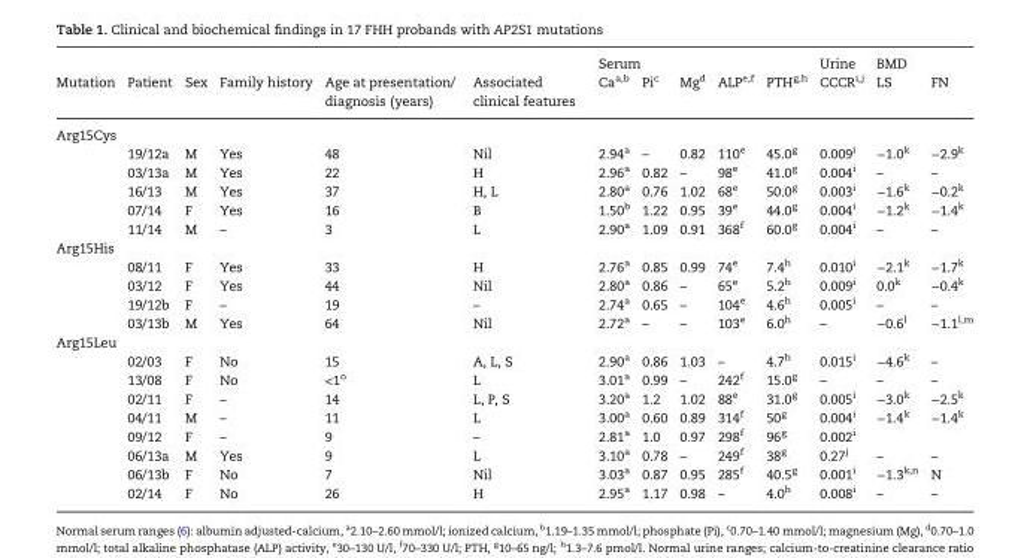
<table><thead><tr><td rowspan="2">Mutation</td><td rowspan="2">Patient</td><td rowspan="2">Sex</td><td rowspan="2">Family history</td><td rowspan="2">Age at presentation/ diagnosis (years)</td><td rowspan="2">Associated clinical features</td><td colspan="5">Serum</td><td rowspan="2">Urine CCCR<sup>i,j</sup></td><td colspan="2">BMD</td></tr><tr><td>Ca<sup>a,b</sup></td><td>Pi<sup>c</sup></td><td>Mg<sup>d</sup></td><td>ALP<sup>e,f</sup></td><td>PTH<sup>g,h</sup></td><td>LS</td><td>FN</td></tr></thead><tbody><tr><td colspan="14">Arg15Cys</td></tr><tr><td rowspan="5"></td><td>19/12a</td><td>M</td><td>Yes</td><td>48</td><td>Nil</td><td>2.94<sup>a</sup></td><td>–</td><td>0.82</td><td>110<sup>e</sup></td><td>45.0<sup>g</sup></td><td>0.009<sup>i</sup></td><td>−1.0<sup>k</sup></td><td>−2.9<sup>k</sup></td></tr><tr><td>03/13a</td><td>M</td><td>Yes</td><td>22</td><td>H</td><td>2.96<sup>a</sup></td><td>0.82</td><td>–</td><td>98<sup>e</sup></td><td>41.0<sup>g</sup></td><td>0.004<sup>i</sup></td><td>–</td><td>–</td></tr><tr><td>16/13</td><td>M</td><td>Yes</td><td>37</td><td>H, L</td><td>2.80<sup>a</sup></td><td>0.76</td><td>1.02</td><td>68<sup>e</sup></td><td>50.0<sup>g</sup></td><td>0.003<sup>i</sup></td><td>−1.6<sup>k</sup></td><td>−0.2<sup>k</sup></td></tr><tr><td>07/14</td><td>F</td><td>Yes</td><td>16</td><td>B</td><td>1.50<sup>b</sup></td><td>1.22</td><td>0.95</td><td>39<sup>e</sup></td><td>44.0<sup>g</sup></td><td>0.004<sup>i</sup></td><td>−1.2<sup>k</sup></td><td>−1.4<sup>k</sup></td></tr><tr><td>11/14</td><td>M</td><td>–</td><td>3</td><td>L</td><td>2.90<sup>a</sup></td><td>1.09</td><td>0.91</td><td>368<sup>f</sup></td><td>60.0<sup>g</sup></td><td>0.004<sup>i</sup></td><td>–</td><td>–</td></tr><tr><td colspan="14">Arg15His</td></tr><tr><td rowspan="4"></td><td>08/11</td><td>F</td><td>Yes</td><td>33</td><td>H</td><td>2.76<sup>a</sup></td><td>0.85</td><td>0.99</td><td>74<sup>e</sup></td><td>7.4<sup>h</sup></td><td>0.010<sup>i</sup></td><td>−2.1<sup>k</sup></td><td>−1.7<sup>k</sup></td></tr><tr><td>03/12</td><td>F</td><td>Yes</td><td>44</td><td>Nil</td><td>2.80<sup>a</sup></td><td>0.86</td><td>–</td><td>65<sup>e</sup></td><td>5.2<sup>h</sup></td><td>0.009<sup>i</sup></td><td>0.0<sup>k</sup></td><td>−0.4<sup>k</sup></td></tr><tr><td>19/12b</td><td>F</td><td>–</td><td>19</td><td>–</td><td>2.74<sup>a</sup></td><td>0.65</td><td>–</td><td>104<sup>e</sup></td><td>4.6<sup>h</sup></td><td>0.005<sup>i</sup></td><td>–</td><td>–</td></tr><tr><td>03/13b</td><td>M</td><td>Yes</td><td>64</td><td>Nil</td><td>2.72<sup>a</sup></td><td>–</td><td>–</td><td>103<sup>e</sup></td><td>6.0<sup>h</sup></td><td>–</td><td>−0.6<sup>l</sup></td><td>−1.1<sup>l,m</sup></td></tr><tr><td colspan="14">Arg15Leu</td></tr><tr><td rowspan="8"></td><td>02/03</td><td>F</td><td>No</td><td>15</td><td>A, L, S</td><td>2.90<sup>a</sup></td><td>0.86</td><td>1.03</td><td>–</td><td>4.7<sup>h</sup></td><td>0.015<sup>i</sup></td><td>−4.6<sup>k</sup></td><td>–</td></tr><tr><td>13/08</td><td>F</td><td>No</td><td>&lt;1<sup>o</sup></td><td>L</td><td>3.01<sup>a</sup></td><td>0.99</td><td>–</td><td>242<sup>f</sup></td><td>15.0<sup>g</sup></td><td>–</td><td>–</td><td>–</td></tr><tr><td>02/11</td><td>F</td><td>–</td><td>14</td><td>L, P, S</td><td>3.20<sup>a</sup></td><td>1.2</td><td>1.02</td><td>88<sup>e</sup></td><td>31.0<sup>g</sup></td><td>0.005<sup>i</sup></td><td>−3.0<sup>k</sup></td><td>−2.5<sup>k</sup></td></tr><tr><td>04/11</td><td>M</td><td>–</td><td>11</td><td>L</td><td>3.00<sup>a</sup></td><td>0.60</td><td>0.89</td><td>314<sup>f</sup></td><td>50<sup>g</sup></td><td>0.004<sup>i</sup></td><td>−1.4<sup>k</sup></td><td>−1.4<sup>k</sup></td></tr><tr><td>09/12</td><td>F</td><td>–</td><td>9</td><td>–</td><td>2.81<sup>a</sup></td><td>1.0</td><td>0.97</td><td>298<sup>f</sup></td><td>96<sup>g</sup></td><td>0.002<sup>i</sup></td><td></td><td></td></tr><tr><td>06/13a</td><td>M</td><td>Yes</td><td>9</td><td>L</td><td>3.10<sup>a</sup></td><td>0.78</td><td>–</td><td>249<sup>f</sup></td><td>38<sup>g</sup></td><td>0.27<sup>j</sup></td><td>–</td><td>–</td></tr><tr><td>06/13b</td><td>F</td><td>No</td><td>7</td><td>Nil</td><td>3.03<sup>a</sup></td><td>0.87</td><td>0.95</td><td>285<sup>f</sup></td><td>40.5<sup>g</sup></td><td>0.001<sup>i</sup></td><td>−1.3<sup>k,n</sup></td><td>N</td></tr><tr><td>02/14</td><td>F</td><td>No</td><td>26</td><td>H</td><td>2.95<sup>a</sup></td><td>1.17</td><td>0.98</td><td>–</td><td>4.0<sup>h</sup></td><td>0.008<sup>i</sup></td><td>–</td><td>–</td></tr></tbody></table>